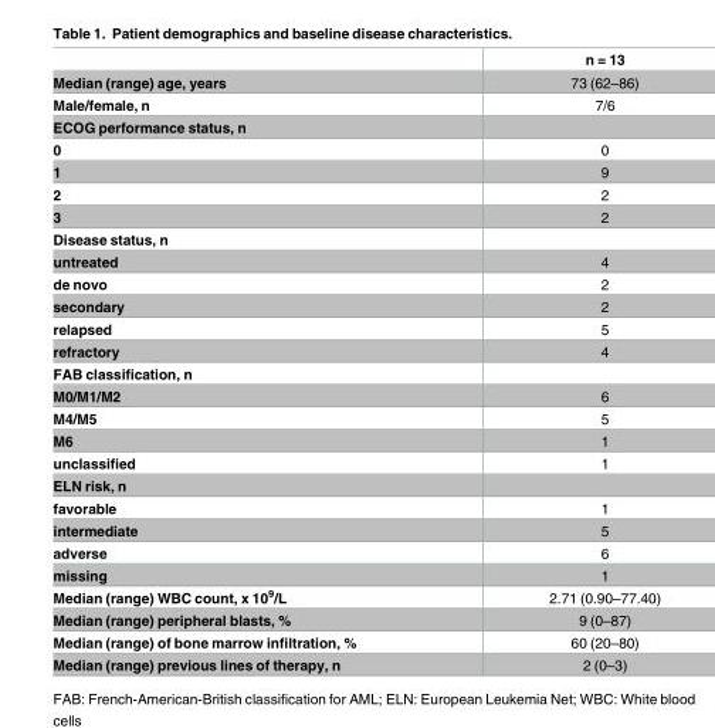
<table><thead><tr><td></td><td>n = 13</td></tr></thead><tbody><tr><td>Median (range) age, years</td><td>73 (62–86)</td></tr><tr><td>Male/female, n</td><td>7/6</td></tr><tr><td colspan="2">ECOG performance status, n</td></tr><tr><td>0</td><td>0</td></tr><tr><td>1</td><td>9</td></tr><tr><td>2</td><td>2</td></tr><tr><td>3</td><td>2</td></tr><tr><td colspan="2">Disease status, n</td></tr><tr><td>untreated</td><td>4</td></tr><tr><td>de novo</td><td>2</td></tr><tr><td>secondary</td><td>2</td></tr><tr><td>relapsed</td><td>5</td></tr><tr><td>refractory</td><td>4</td></tr><tr><td colspan="2">FAB classification, n</td></tr><tr><td>M0/M1/M2</td><td>6</td></tr><tr><td>M4/M5</td><td>5</td></tr><tr><td>M6</td><td>1</td></tr><tr><td>unclassified</td><td>1</td></tr><tr><td colspan="2">ELN risk, n</td></tr><tr><td>favorable</td><td>1</td></tr><tr><td>intermediate</td><td>5</td></tr><tr><td>adverse</td><td>6</td></tr><tr><td>missing</td><td>1</td></tr><tr><td>Median (range) WBC count, x 10<sup>9</sup>/L</td><td>2.71 (0.90–77.40)</td></tr><tr><td>Median (range) peripheral blasts, %</td><td>9 (0–87)</td></tr><tr><td>Median (range) of bone marrow infiltration, %</td><td>60 (20–80)</td></tr><tr><td>Median (range) previous lines of therapy, n</td><td>2 (0–3)</td></tr></tbody></table>